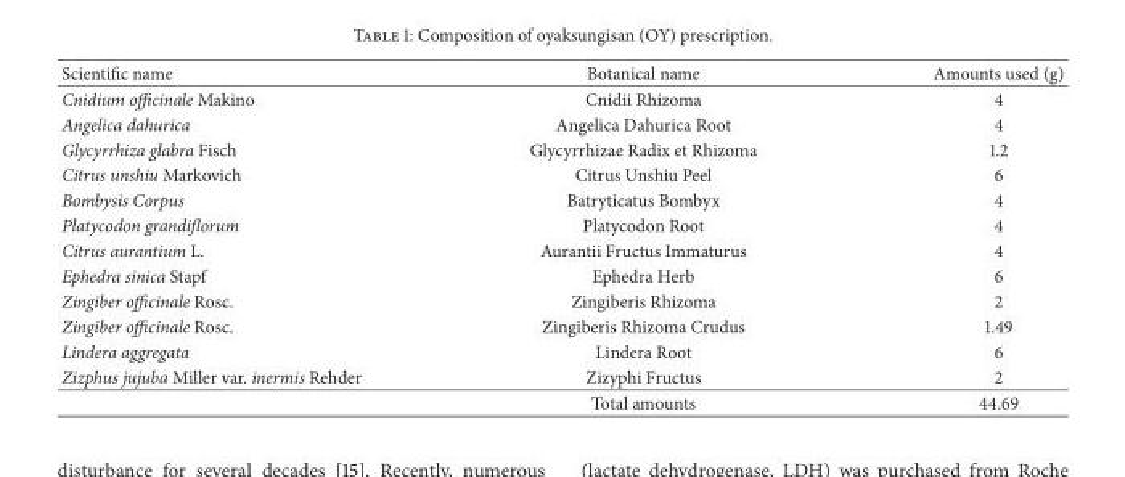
<table><thead><tr><td>Scientific name</td><td>Botanical name</td><td>Amounts used (g)</td></tr></thead><tbody><tr><td>Cnidium officinale Makino</td><td>Cnidii Rhizoma</td><td>4</td></tr><tr><td>Angelica dahurica</td><td>Angelica Dahurica Root</td><td>4</td></tr><tr><td>Glycyrrhiza glabra Fisch</td><td>Glycyrrhizae Radix et Rhizoma</td><td>1.2</td></tr><tr><td>Citrus unshiu Markovich</td><td>Citrus Unshiu Peel</td><td>6</td></tr><tr><td>Bombysis Corpus</td><td>Batryticatus Bombyx</td><td>4</td></tr><tr><td>Platycodon grandiflorum</td><td>Platycodon Root</td><td>4</td></tr><tr><td>Citrus aurantium L.</td><td>Aurantii Fructus Immaturus</td><td>4</td></tr><tr><td>Ephedra sinica Stapf</td><td>Ephedra Herb</td><td>6</td></tr><tr><td>Zingiber officinale Rosc.</td><td>Zingiberis Rhizoma</td><td>2</td></tr><tr><td>Zingiber officinale Rosc.</td><td>Zingiberis Rhizoma Crudus</td><td>1.49</td></tr><tr><td>Lindera aggregata</td><td>Lindera Root</td><td>6</td></tr><tr><td rowspan="2">Zizphus jujuba Miller var. inermis Rehder</td><td>Zizyphi Fructus</td><td>2</td></tr><tr><td>Total amounts</td><td>44.69</td></tr></tbody></table>